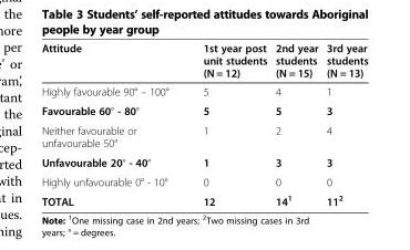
<table><thead><tr><td>Attitude</td><td>1st year post unit students (N = 12)</td><td>2nd year students (N = 15)</td><td>3rd year students (N = 13)</td></tr></thead><tbody><tr><td>Highly favourable 90° – 100°</td><td>5</td><td>4</td><td>1</td></tr><tr><td>Favourable 60° - 80°</td><td>5</td><td>5</td><td>3</td></tr><tr><td>Neither favourable or unfavourable 50°</td><td>1</td><td>2</td><td>4</td></tr><tr><td>Unfavourable 20° - 40°</td><td>1</td><td>3</td><td>3</td></tr><tr><td>Highly unfavourable 0° - 10°</td><td>0</td><td>0</td><td>0</td></tr><tr><td>TOTAL</td><td>12</td><td>14<sup>1</sup></td><td>11<sup>2</sup></td></tr></tbody></table>